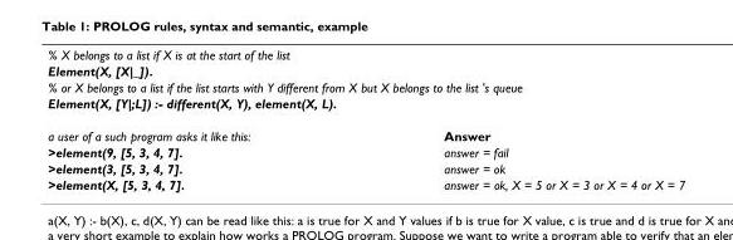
<table><tbody><tr><td colspan="2">% X belongs to a list if X is at the start of the list</td></tr><tr><td colspan="2">Element(X, [X|_]).</td></tr><tr><td colspan="2">% or X belongs to a list if the list starts with Y different from X but X belongs to the list &#x27;s queue</td></tr><tr><td colspan="2">Element(X, [Y|;L]) :- different(X, Y), element(X, L).</td></tr><tr><td>a user of a such program asks it like this:</td><td>Answer</td></tr><tr><td>&gt;element(9, [5, 3, 4, 7].</td><td>answer = fail</td></tr><tr><td>&gt;element(3, [5, 3, 4, 7].</td><td>answer = ok</td></tr><tr><td>&gt;element(X, [5, 3, 4, 7].</td><td>answer = ok, X = 5 or X = 3 or X = 4 or X = 7</td></tr></tbody></table>